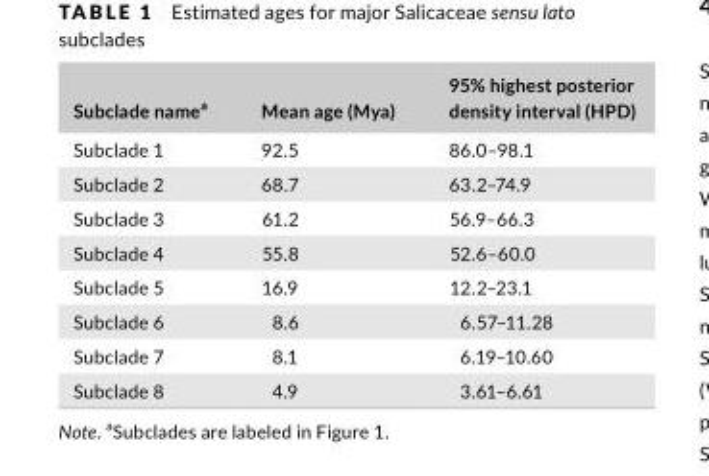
<table><thead><tr><td>Subclade name<sup>a</sup></td><td>Mean age (Mya)</td><td>95% highest posterior density interval (HPD)</td></tr></thead><tbody><tr><td>Subclade 1</td><td>92.5</td><td>86.0–98.1</td></tr><tr><td>Subclade 2</td><td>68.7</td><td>63.2–74.9</td></tr><tr><td>Subclade 3</td><td>61.2</td><td>56.9–66.3</td></tr><tr><td>Subclade 4</td><td>55.8</td><td>52.6–60.0</td></tr><tr><td>Subclade 5</td><td>16.9</td><td>12.2–23.1</td></tr><tr><td>Subclade 6</td><td>8.6</td><td>6.57–11.28</td></tr><tr><td>Subclade 7</td><td>8.1</td><td>6.19–10.60</td></tr><tr><td>Subclade 8</td><td>4.9</td><td>3.61–6.61</td></tr></tbody></table>